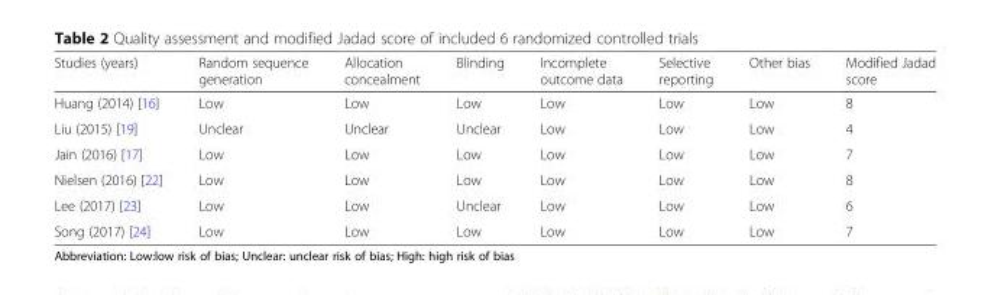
<table><thead><tr><td>Studies (years)</td><td>Random sequence generation</td><td>Allocation concealment</td><td>Blinding</td><td>Incomplete outcome data</td><td>Selective reporting</td><td>Other bias</td><td>Modified Jadad score</td></tr></thead><tbody><tr><td>Huang (2014) [16]</td><td>Low</td><td>Low</td><td>Low</td><td>Low</td><td>Low</td><td>Low</td><td>8</td></tr><tr><td>Liu (2015) [19]</td><td>Unclear</td><td>Unclear</td><td>Unclear</td><td>Low</td><td>Low</td><td>Low</td><td>4</td></tr><tr><td>Jain (2016) [17]</td><td>Low</td><td>Low</td><td>Low</td><td>Low</td><td>Low</td><td>Low</td><td>7</td></tr><tr><td>Nielsen (2016) [22]</td><td>Low</td><td>Low</td><td>Low</td><td>Low</td><td>Low</td><td>Low</td><td>8</td></tr><tr><td>Lee (2017) [23]</td><td>Low</td><td>Low</td><td>Unclear</td><td>Low</td><td>Low</td><td>Low</td><td>6</td></tr><tr><td>Song (2017) [24]</td><td>Low</td><td>Low</td><td>Low</td><td>Low</td><td>Low</td><td>Low</td><td>7</td></tr></tbody></table>